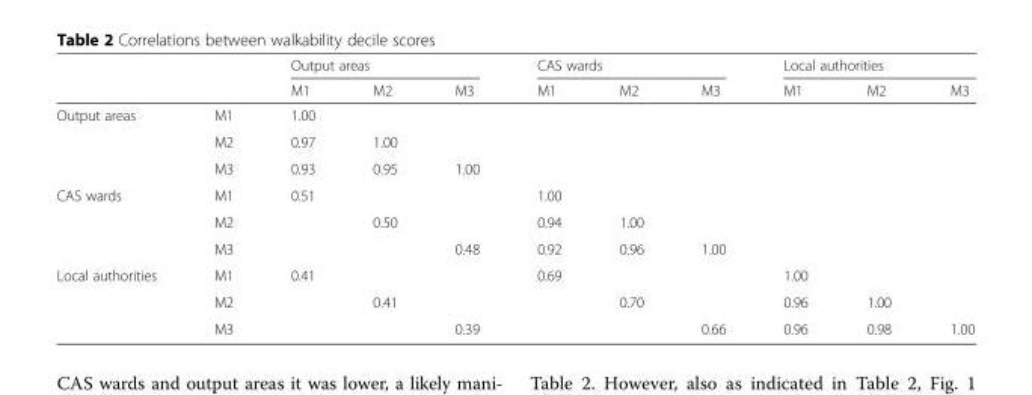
<table><thead><tr><td rowspan="2"></td><td rowspan="2"></td><td colspan="3">Output areas</td><td colspan="3">CAS wards</td><td colspan="3">Local authorities</td></tr><tr><td>M1</td><td>M2</td><td>M3</td><td>M1</td><td>M2</td><td>M3</td><td>M1</td><td>M2</td><td>M3</td></tr></thead><tbody><tr><td rowspan="3">Output areas</td><td>M1</td><td>1.00</td><td></td><td></td><td></td><td></td><td></td><td></td><td></td><td></td></tr><tr><td>M2</td><td>0.97</td><td>1.00</td><td></td><td></td><td></td><td></td><td></td><td></td><td></td></tr><tr><td>M3</td><td>0.93</td><td>0.95</td><td>1.00</td><td></td><td></td><td></td><td></td><td></td><td></td></tr><tr><td rowspan="3">CAS wards</td><td>M1</td><td>0.51</td><td></td><td></td><td>1.00</td><td></td><td></td><td></td><td></td><td></td></tr><tr><td>M2</td><td></td><td>0.50</td><td></td><td>0.94</td><td>1.00</td><td></td><td></td><td></td><td></td></tr><tr><td>M3</td><td></td><td></td><td>0.48</td><td>0.92</td><td>0.96</td><td>1.00</td><td></td><td></td><td></td></tr><tr><td rowspan="3">Local authorities</td><td>M1</td><td>0.41</td><td></td><td></td><td>0.69</td><td></td><td></td><td>1.00</td><td></td><td></td></tr><tr><td>M2</td><td></td><td>0.41</td><td></td><td></td><td>0.70</td><td></td><td>0.96</td><td>1.00</td><td></td></tr><tr><td>M3</td><td></td><td></td><td>0.39</td><td></td><td></td><td>0.66</td><td>0.96</td><td>0.98</td><td>1.00</td></tr></tbody></table>